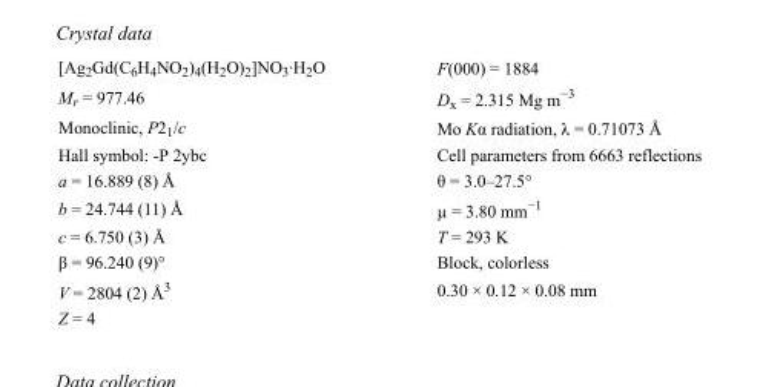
<table><tbody><tr><td>[Ag<sub>2</sub>Gd(C<sub>6</sub>H<sub>4</sub>NO<sub>2</sub>)<sub>4</sub>(H<sub>2</sub>O)<sub>2</sub>]NO<sub>3</sub>·H<sub>2</sub>O</td><td>F(000) = 1884</td></tr><tr><td>M<sub>r</sub> = 977.46</td><td>D<sub>x</sub> = 2.315 Mg m<sup>−3</sup></td></tr><tr><td>Monoclinic, P2<sub>1</sub>/c</td><td>Mo Kα radiation, λ = 0.71073 Å</td></tr><tr><td>Hall symbol: -P 2ybc</td><td>Cell parameters from 6663 reflections</td></tr><tr><td>a = 16.889 (8) Å</td><td>θ = 3.0–27.5°</td></tr><tr><td>b = 24.744 (11) Å</td><td>µ = 3.80 mm<sup>−1</sup></td></tr><tr><td>c = 6.750 (3) Å</td><td>T = 293 K</td></tr><tr><td>β = 96.240 (9)°</td><td>Block, colorless</td></tr><tr><td>V = 2804 (2) Å<sup>3</sup></td><td>0.30 × 0.12 × 0.08 mm</td></tr><tr><td>Z = 4</td><td></td></tr></tbody></table>